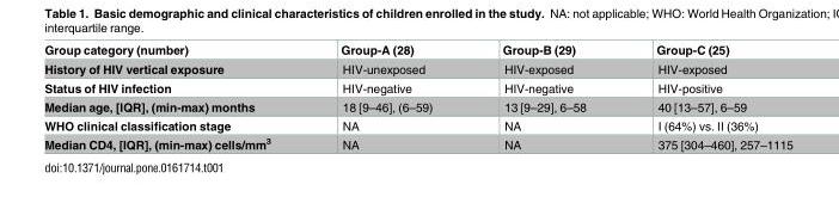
<table><thead><tr><td>Group category (number)</td><td>Group-A (28)</td><td>Group-B (29)</td><td>Group-C (25)</td></tr></thead><tbody><tr><td>History of HIV vertical exposure</td><td>HIV-unexposed</td><td>HIV-exposed</td><td>HIV-exposed</td></tr><tr><td>Status of HIV infection</td><td>HIV-negative</td><td>HIV-negative</td><td>HIV-positive</td></tr><tr><td>Median age, [IQR], (min-max) months</td><td>18 [9–46], (6–59)</td><td>13 [9–29], 6–58</td><td>40 [13–57], 6–59</td></tr><tr><td>WHO clinical classification stage</td><td>NA</td><td>NA</td><td>I (64%) vs. II (36%)</td></tr><tr><td>Median CD4, [IQR], (min-max) cells/mm<sup>3</sup></td><td>NA</td><td>NA</td><td>375 [304–460], 257–1115</td></tr></tbody></table>